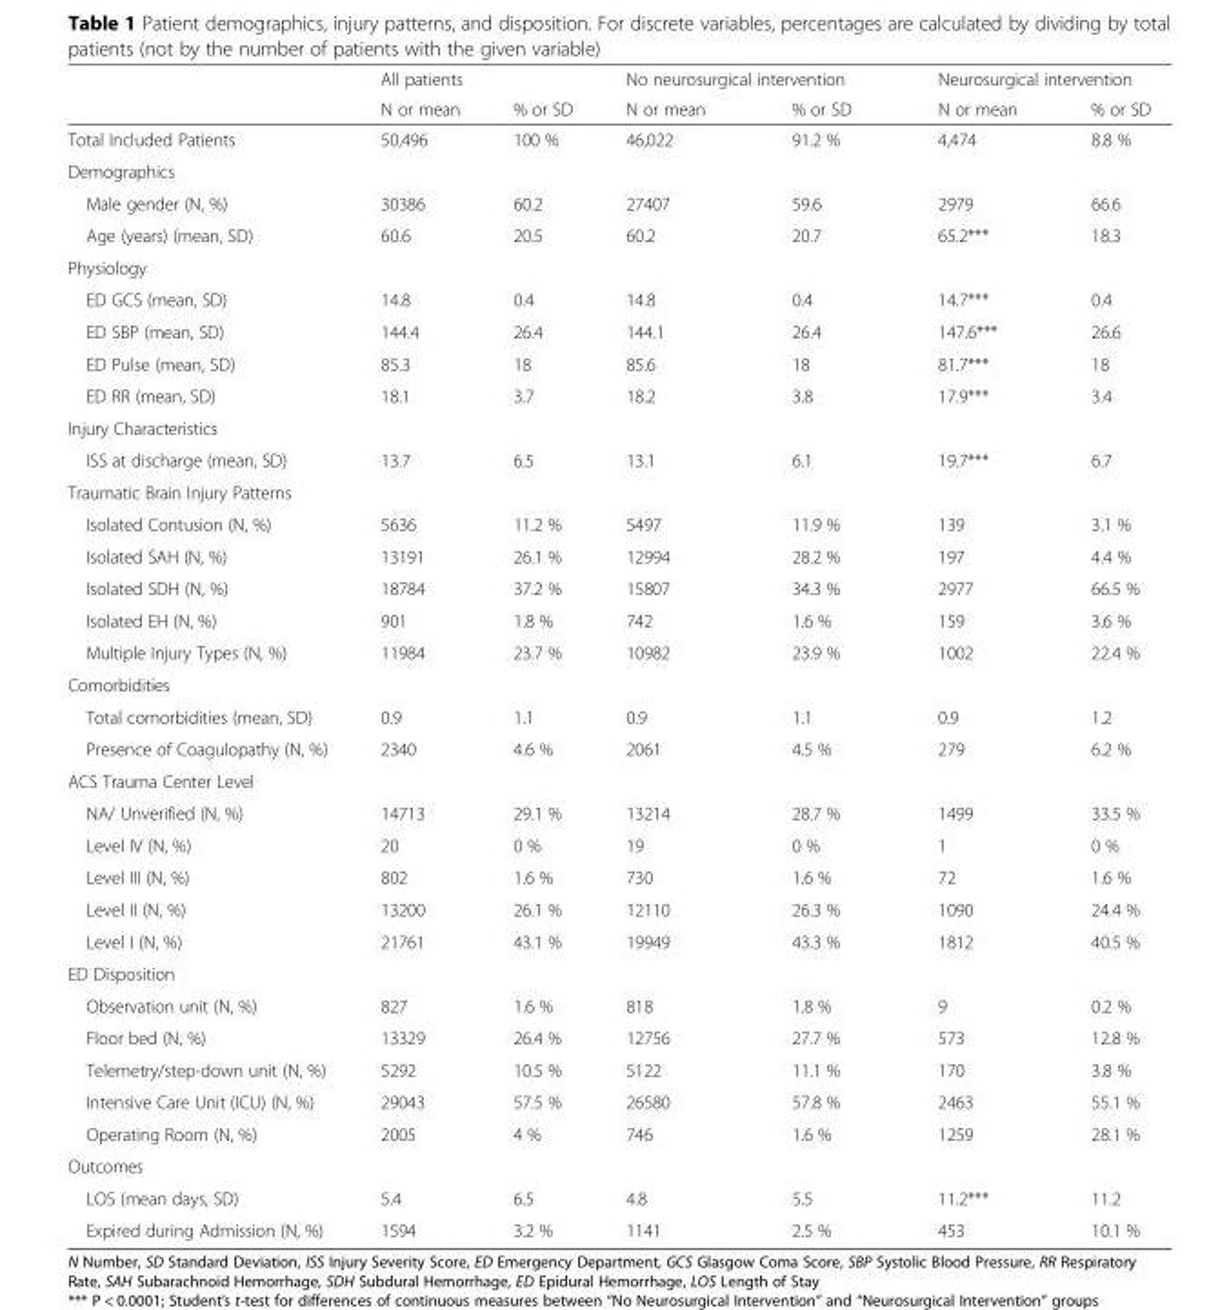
<table><thead><tr><td rowspan="2"></td><td colspan="2">All patients</td><td colspan="2">No neurosurgical intervention</td><td colspan="2">Neurosurgical intervention</td></tr><tr><td>N or mean</td><td>% or SD</td><td>N or mean</td><td>% or SD</td><td>N or mean</td><td>% or SD</td></tr></thead><tbody><tr><td>Total Included Patients</td><td>50,496</td><td>100 %</td><td>46,022</td><td>91.2 %</td><td>4,474</td><td>8.8 %</td></tr><tr><td colspan="7">Demographics</td></tr><tr><td>Male gender (N, %)</td><td>30386</td><td>60.2</td><td>27407</td><td>59.6</td><td>2979</td><td>66.6</td></tr><tr><td>Age (years) (mean, SD)</td><td>60.6</td><td>20.5</td><td>60.2</td><td>20.7</td><td>65.2***</td><td>18.3</td></tr><tr><td colspan="7">Physiology</td></tr><tr><td>ED GCS (mean, SD)</td><td>14.8</td><td>0.4</td><td>14.8</td><td>0.4</td><td>14.7***</td><td>0.4</td></tr><tr><td>ED SBP (mean, SD)</td><td>144.4</td><td>26.4</td><td>144.1</td><td>26.4</td><td>147.6***</td><td>26.6</td></tr><tr><td>ED Pulse (mean, SD)</td><td>85.3</td><td>18</td><td>85.6</td><td>18</td><td>81.7***</td><td>18</td></tr><tr><td>ED RR (mean, SD)</td><td>18.1</td><td>3.7</td><td>18.2</td><td>3.8</td><td>17.9***</td><td>3.4</td></tr><tr><td colspan="7">Injury Characteristics</td></tr><tr><td>ISS at discharge (mean, SD)</td><td>13.7</td><td>6.5</td><td>13.1</td><td>6.1</td><td>19.7***</td><td>6.7</td></tr><tr><td colspan="7">Traumatic Brain Injury Patterns</td></tr><tr><td>Isolated Contusion (N, %)</td><td>5636</td><td>11.2 %</td><td>5497</td><td>11.9 %</td><td>139</td><td>3.1 %</td></tr><tr><td>Isolated SAH (N, %)</td><td>13191</td><td>26.1 %</td><td>12994</td><td>28.2 %</td><td>197</td><td>4.4 %</td></tr><tr><td>Isolated SDH (N, %)</td><td>18784</td><td>37.2 %</td><td>15807</td><td>34.3 %</td><td>2977</td><td>66.5 %</td></tr><tr><td>Isolated EH (N, %)</td><td>901</td><td>1.8 %</td><td>742</td><td>1.6 %</td><td>159</td><td>3.6 %</td></tr><tr><td>Multiple Injury Types (N, %)</td><td>11984</td><td>23.7 %</td><td>10982</td><td>23.9 %</td><td>1002</td><td>22.4 %</td></tr><tr><td colspan="7">Comorbidities</td></tr><tr><td>Total comorbidities (mean, SD)</td><td>0.9</td><td>1.1</td><td>0.9</td><td>1.1</td><td>0.9</td><td>1.2</td></tr><tr><td>Presence of Coagulopathy (N, %)</td><td>2340</td><td>4.6 %</td><td>2061</td><td>4.5 %</td><td>279</td><td>6.2 %</td></tr><tr><td colspan="7">ACS Trauma Center Level</td></tr><tr><td>NA/ Unverified (N, %)</td><td>14713</td><td>29.1 %</td><td>13214</td><td>28.7 %</td><td>1499</td><td>33.5 %</td></tr><tr><td>Level IV (N, %)</td><td>20</td><td>0 %</td><td>19</td><td>0 %</td><td>1</td><td>0 %</td></tr><tr><td>Level III (N, %)</td><td>802</td><td>1.6 %</td><td>730</td><td>1.6 %</td><td>72</td><td>1.6 %</td></tr><tr><td>Level II (N, %)</td><td>13200</td><td>26.1 %</td><td>12110</td><td>26.3 %</td><td>1090</td><td>24.4 %</td></tr><tr><td>Level I (N, %)</td><td>21761</td><td>43.1 %</td><td>19949</td><td>43.3 %</td><td>1812</td><td>40.5 %</td></tr><tr><td colspan="7">ED Disposition</td></tr><tr><td>Observation unit (N, %)</td><td>827</td><td>1.6 %</td><td>818</td><td>1.8 %</td><td>9</td><td>0.2 %</td></tr><tr><td>Floor bed (N, %)</td><td>13329</td><td>26.4 %</td><td>12756</td><td>27.7 %</td><td>573</td><td>12.8 %</td></tr><tr><td>Telemetry/step-down unit (N, %)</td><td>5292</td><td>10.5 %</td><td>5122</td><td>11.1 %</td><td>170</td><td>3.8 %</td></tr><tr><td>Intensive Care Unit (ICU) (N, %)</td><td>29043</td><td>57.5 %</td><td>26580</td><td>57.8 %</td><td>2463</td><td>55.1 %</td></tr><tr><td>Operating Room (N, %)</td><td>2005</td><td>4 %</td><td>746</td><td>1.6 %</td><td>1259</td><td>28.1 %</td></tr><tr><td colspan="7">Outcomes</td></tr><tr><td>LOS (mean days, SD)</td><td>5.4</td><td>6.5</td><td>4.8</td><td>5.5</td><td>11.2***</td><td>11.2</td></tr><tr><td>Expired during Admission (N, %)</td><td>1594</td><td>3.2 %</td><td>1141</td><td>2.5 %</td><td>453</td><td>10.1 %</td></tr></tbody></table>